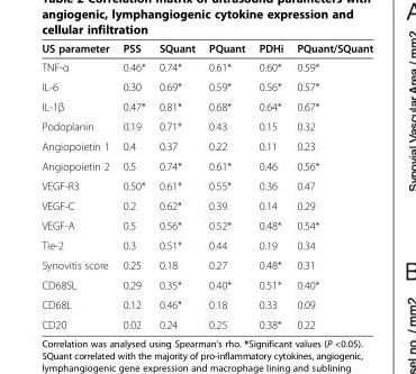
<table><thead><tr><td>US parameter</td><td>PSS</td><td>SQuant</td><td>PQuant</td><td>PDHi</td><td>PQuant/SQuant</td></tr></thead><tbody><tr><td>TNF-α</td><td>0.46*</td><td>0.74*</td><td>0.61*</td><td>0.60*</td><td>0.59*</td></tr><tr><td>IL-6</td><td>0.30</td><td>0.69*</td><td>0.59*</td><td>0.56*</td><td>0.57*</td></tr><tr><td>IL-1β</td><td>0.47*</td><td>0.81*</td><td>0.68*</td><td>0.64*</td><td>0.67*</td></tr><tr><td>Podoplanin</td><td>0.19</td><td>0.71*</td><td>0.43</td><td>0.15</td><td>0.32</td></tr><tr><td>Angiopoietin 1</td><td>0.4</td><td>0.37</td><td>0.22</td><td>0.11</td><td>0.23</td></tr><tr><td>Angiopoietin 2</td><td>0.5</td><td>0.74*</td><td>0.61*</td><td>0.46</td><td>0.56*</td></tr><tr><td>VEGF-R3</td><td>0.50*</td><td>0.61*</td><td>0.55*</td><td>0.36</td><td>0.47</td></tr><tr><td>VEGF-C</td><td>0.2</td><td>0.62*</td><td>0.39</td><td>0.14</td><td>0.29</td></tr><tr><td>VEGF-A</td><td>0.5</td><td>0.56*</td><td>0.52*</td><td>0.48*</td><td>0.54*</td></tr><tr><td>Tie-2</td><td>0.3</td><td>0.51*</td><td>0.44</td><td>0.19</td><td>0.34</td></tr><tr><td>Synovitis score</td><td>0.25</td><td>0.18</td><td>0.27</td><td>0.48*</td><td>0.31</td></tr><tr><td>CD68SL</td><td>0.29</td><td>0.35*</td><td>0.40*</td><td>0.51*</td><td>0.40*</td></tr><tr><td>CD68L</td><td>0.12</td><td>0.46*</td><td>0.18</td><td>0.33</td><td>0.09</td></tr><tr><td>CD20</td><td>0.02</td><td>0.24</td><td>0.25</td><td>0.38*</td><td>0.22</td></tr></tbody></table>